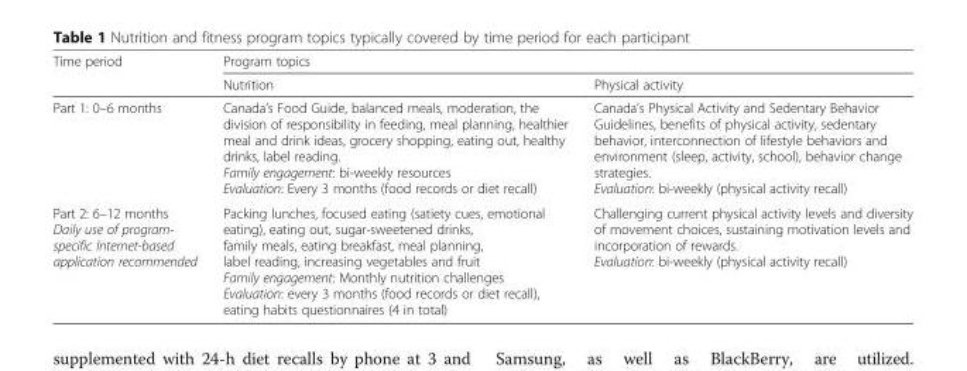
<table><thead><tr><td rowspan="2">Time period</td><td colspan="2">Program topics</td></tr><tr><td>Nutrition</td><td>Physical activity</td></tr></thead><tbody><tr><td>Part 1: 0–6 months</td><td>Canada’s Food Guide, balanced meals, moderation, the division of responsibility in feeding, meal planning, healthier meal and drink ideas, grocery shopping, eating out, healthy drinks, label reading. Family engagement: bi-weekly resources Evaluation: Every 3 months (food records or diet recall)</td><td>Canada’s Physical Activity and Sedentary Behavior Guidelines, benefits of physical activity, sedentary behavior, interconnection of lifestyle behaviors and environment (sleep, activity, school), behavior change strategies. Evaluation: bi-weekly (physical activity recall)</td></tr><tr><td>Part 2: 6–12 months Daily use of program- specific Internet-based application recommended</td><td>Packing lunches, focused eating (satiety cues, emotional eating), eating out, sugar-sweetened drinks, family meals, eating breakfast, meal planning, label reading, increasing vegetables and fruit Family engagement: Monthly nutrition challenges Evaluation: every 3 months (food records or diet recall), eating habits questionnaires (4 in total)</td><td>Challenging current physical activity levels and diversity of movement choices, sustaining motivation levels and incorporation of rewards. Evaluation: bi-weekly (physical activity recall)</td></tr></tbody></table>